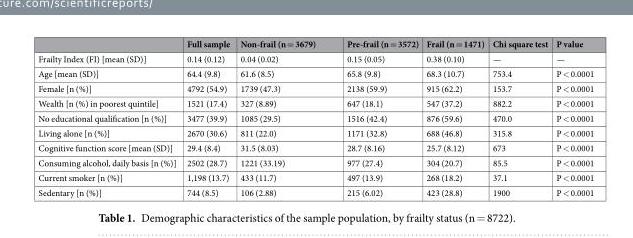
<table><thead><tr><td></td><td>Full sample</td><td>Non-frail (n = 3679)</td><td>Pre-frail (n = 3572)</td><td>Frail (n = 1471)</td><td>Chi square test</td><td>P value</td></tr></thead><tbody><tr><td>Frailty Index (FI) [mean (SD)]</td><td>0.14 (0.12)</td><td>0.04 (0.02)</td><td>0.15 (0.05)</td><td>0.38 (0.10)</td><td>—</td><td>—</td></tr><tr><td>Age [mean (SD)]</td><td>64.4 (9.8)</td><td>61.6 (8.5)</td><td>65.8 (9.8)</td><td>68.3 (10.7)</td><td>753.4</td><td>P &lt; 0.0001</td></tr><tr><td>Female [n (%)]</td><td>4792 (54.9)</td><td>1739 (47.3)</td><td>2138 (59.9)</td><td>915 (62.2)</td><td>153.7</td><td>P &lt; 0.0001</td></tr><tr><td>Wealth [n (%) in poorest quintile]</td><td>1521 (17.4)</td><td>327 (8.89)</td><td>647 (18.1)</td><td>547 (37.2)</td><td>882.2</td><td>P &lt; 0.0001</td></tr><tr><td>No educational qualification [n (%)]</td><td>3477 (39.9)</td><td>1085 (29.5)</td><td>1516 (42.4)</td><td>876 (59.6)</td><td>470.0</td><td>P &lt; 0.0001</td></tr><tr><td>Living alone [n (%)]</td><td>2670 (30.6)</td><td>811 (22.0)</td><td>1171 (32.8)</td><td>688 (46.8)</td><td>315.8</td><td>P &lt; 0.0001</td></tr><tr><td>Cognitive function score [mean (SD)]</td><td>29.4 (8.4)</td><td>31.5 (8.03)</td><td>28.7 (8.16)</td><td>25.7 (8.12)</td><td>673</td><td>P &lt; 0.0001</td></tr><tr><td>Consuming alcohol, daily basis [n (%)]</td><td>2502 (28.7)</td><td>1221 (33.19)</td><td>977 (27.4)</td><td>304 (20.7)</td><td>85.5</td><td>P &lt; 0.0001</td></tr><tr><td>Current smoker [n (%)]</td><td>1,198 (13.7)</td><td>433 (11.7)</td><td>497 (13.9)</td><td>268 (18.2)</td><td>37.1</td><td>P &lt; 0.0001</td></tr><tr><td>Sedentary [n (%)]</td><td>744 (8.5)</td><td>106 (2.88)</td><td>215 (6.02)</td><td>423 (28.8)</td><td>1900</td><td>P &lt; 0.0001</td></tr></tbody></table>